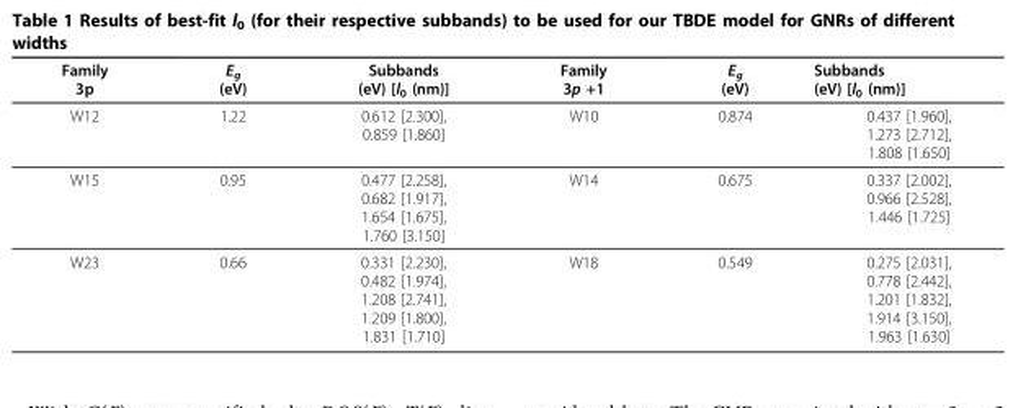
<table><thead><tr><td>Family 3p</td><td>E<sub>g</sub> (eV)</td><td>Subbands (eV) [l<sub>0</sub> (nm)]</td><td>Family 3p +1</td><td>E<sub>g</sub> (eV)</td><td>Subbands (eV) [l<sub>0</sub> (nm)]</td></tr></thead><tbody><tr><td>W12</td><td>1.22</td><td>0.612 [2.300], 0.859 [1.860]</td><td>W10</td><td>0.874</td><td>0.437 [1.960], 1.273 [2.712], 1.808 [1.650]</td></tr><tr><td>W15</td><td>0.95</td><td>0.477 [2.258], 0.682 [1.917], 1.654 [1.675], 1.760 [3.150]</td><td>W14</td><td>0.675</td><td>0.337 [2.002], 0.966 [2.528], 1.446 [1.725]</td></tr><tr><td>W23</td><td>0.66</td><td>0.331 [2.230], 0.482 [1.974], 1.208 [2.741], 1.209 [1.800], 1.831 [1.710]</td><td>W18</td><td>0.549</td><td>0.275 [2.031], 0.778 [2.442], 1.201 [1.832], 1.914 [3.150], 1.963 [1.630]</td></tr></tbody></table>